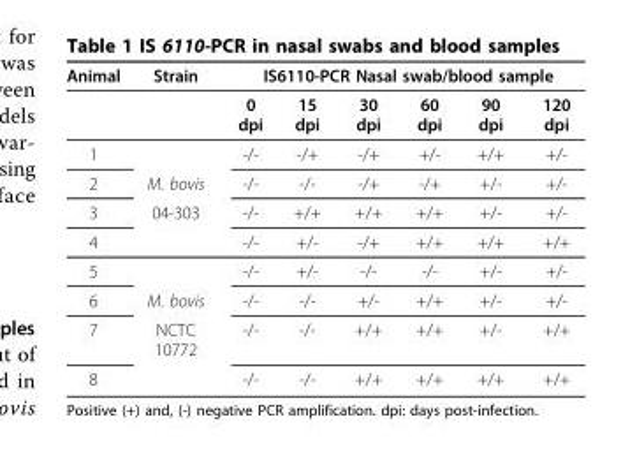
<table><thead><tr><td rowspan="2">Animal</td><td rowspan="2">Strain</td><td colspan="6">IS6110-PCR Nasal swab/blood sample</td></tr><tr><td>0 dpi</td><td>15 dpi</td><td>30 dpi</td><td>60 dpi</td><td>90 dpi</td><td>120 dpi</td></tr></thead><tbody><tr><td>1</td><td></td><td>-/-</td><td>-/+</td><td>-/+</td><td>+/-</td><td>+/+</td><td>+/-</td></tr><tr><td>2</td><td>M. bovis</td><td>-/-</td><td>-/-</td><td>-/+</td><td>-/+</td><td>+/-</td><td>+/-</td></tr><tr><td>3</td><td>04-303</td><td>-/-</td><td>+/+</td><td>+/+</td><td>+/+</td><td>+/-</td><td>+/-</td></tr><tr><td>4</td><td></td><td>-/-</td><td>+/-</td><td>-/+</td><td>+/+</td><td>+/+</td><td>+/+</td></tr><tr><td>5</td><td></td><td>-/-</td><td>+/-</td><td>-/-</td><td>-/-</td><td>+/-</td><td>+/-</td></tr><tr><td>6</td><td>M. bovis</td><td>-/-</td><td>-/-</td><td>+/-</td><td>+/+</td><td>+/-</td><td>+/-</td></tr><tr><td>7</td><td>NCTC 10772</td><td>-/-</td><td>-/-</td><td>+/+</td><td>+/+</td><td>+/-</td><td>+/+</td></tr><tr><td>8</td><td></td><td>-/-</td><td>-/-</td><td>+/+</td><td>+/+</td><td>+/+</td><td>+/+</td></tr></tbody></table>